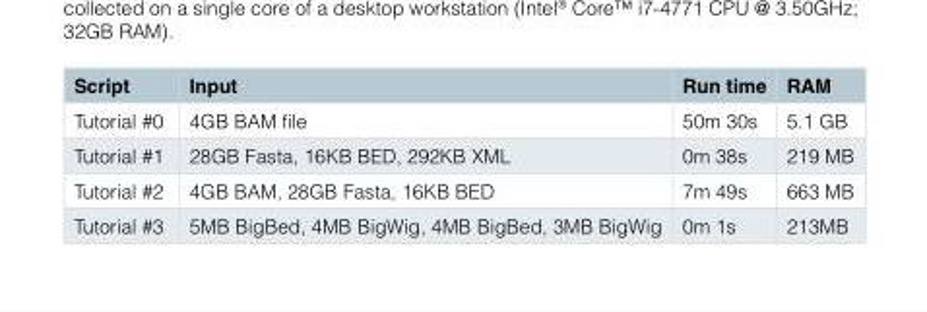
<table><thead><tr><td>Script</td><td>Input</td><td>Run time</td><td>RAM</td></tr></thead><tbody><tr><td>Tutorial #0</td><td>4GB BAM file</td><td>50m 30s</td><td>5.1 GB</td></tr><tr><td>Tutorial #1</td><td>28GB Fasta, 16KB BED, 292KB XML</td><td>0m 38s</td><td>219 MB</td></tr><tr><td>Tutorial #2</td><td>4GB BAM, 28GB Fasta, 16KB BED</td><td>7m 49s</td><td>663 MB</td></tr><tr><td>Tutorial #3</td><td>5MB BigBed, 4MB BigWig, 4MB BigBed, 3MB BigWig</td><td>0m 1s</td><td>213MB</td></tr></tbody></table>